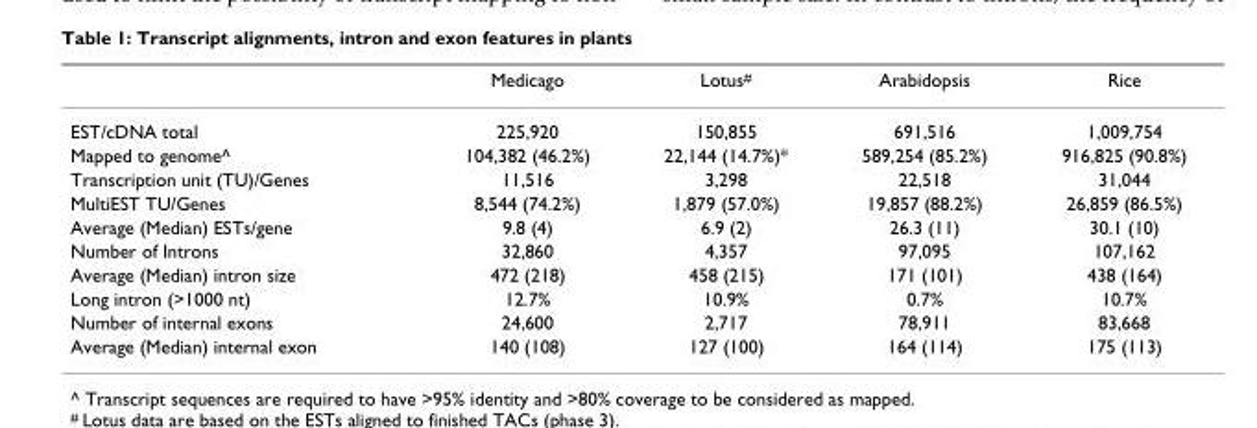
<table><thead><tr><td></td><td>Medicago</td><td>Lotus<sup>#</sup></td><td>Arabidopsis</td><td>Rice</td></tr></thead><tbody><tr><td>EST/cDNA total</td><td>225,920</td><td>150,855</td><td>691,516</td><td>1,009,754</td></tr><tr><td>Mapped to genome^</td><td>104,382 (46.2%)</td><td>22,144 (14.7%)*</td><td>589,254 (85.2%)</td><td>916,825 (90.8%)</td></tr><tr><td>Transcription unit (TU)/Genes</td><td>11,516</td><td>3,298</td><td>22,518</td><td>31,044</td></tr><tr><td>MultiEST TU/Genes</td><td>8,544 (74.2%)</td><td>1,879 (57.0%)</td><td>19,857 (88.2%)</td><td>26,859 (86.5%)</td></tr><tr><td>Average (Median) ESTs/gene</td><td>9.8 (4)</td><td>6.9 (2)</td><td>26.3 (11)</td><td>30.1 (10)</td></tr><tr><td>Number of Introns</td><td>32,860</td><td>4,357</td><td>97,095</td><td>107,162</td></tr><tr><td>Average (Median) intron size</td><td>472 (218)</td><td>458 (215)</td><td>171 (101)</td><td>438 (164)</td></tr><tr><td>Long intron (&gt;1000 nt)</td><td>12.7%</td><td>10.9%</td><td>0.7%</td><td>10.7%</td></tr><tr><td>Number of internal exons</td><td>24,600</td><td>2,717</td><td>78,911</td><td>83,668</td></tr><tr><td>Average (Median) internal exon</td><td>140 (108)</td><td>127 (100)</td><td>164 (114)</td><td>175 (113)</td></tr></tbody></table>